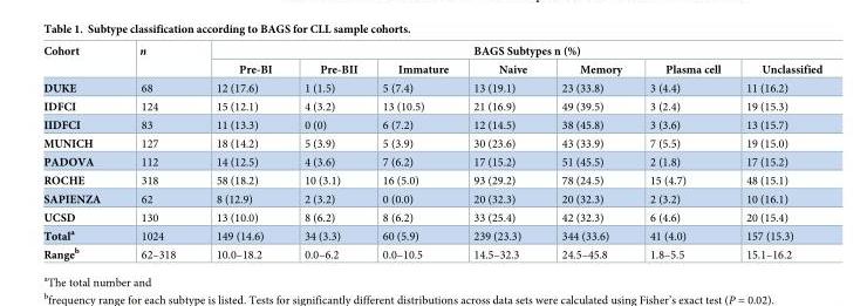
<table><thead><tr><td rowspan="2">Cohort</td><td rowspan="2">n</td><td colspan="7">BAGS Subtypes n (%)</td></tr><tr><td>Pre-BI</td><td>Pre-BII</td><td>Immature</td><td>Naive</td><td>Memory</td><td>Plasma cell</td><td>Unclassified</td></tr></thead><tbody><tr><td>DUKE</td><td>68</td><td>12 (17.6)</td><td>1 (1.5)</td><td>5 (7.4)</td><td>13 (19.1)</td><td>23 (33.8)</td><td>3 (4.4)</td><td>11 (16.2)</td></tr><tr><td>IDFCI</td><td>124</td><td>15 (12.1)</td><td>4 (3.2)</td><td>13 (10.5)</td><td>21 (16.9)</td><td>49 (39.5)</td><td>3 (2.4)</td><td>19 (15.3)</td></tr><tr><td>IIDFCI</td><td>83</td><td>11 (13.3)</td><td>0 (0)</td><td>6 (7.2)</td><td>12 (14.5)</td><td>38 (45.8)</td><td>3 (3.6)</td><td>13 (15.7)</td></tr><tr><td>MUNICH</td><td>127</td><td>18 (14.2)</td><td>5 (3.9)</td><td>5 (3.9)</td><td>30 (23.6)</td><td>43 (33.9)</td><td>7 (5.5)</td><td>19 (15.0)</td></tr><tr><td>PADOVA</td><td>112</td><td>14 (12.5)</td><td>4 (3.6)</td><td>7 (6.2)</td><td>17 (15.2)</td><td>51 (45.5)</td><td>2 (1.8)</td><td>17 (15.2)</td></tr><tr><td>ROCHE</td><td>318</td><td>58 (18.2)</td><td>10 (3.1)</td><td>16 (5.0)</td><td>93 (29.2)</td><td>78 (24.5)</td><td>15 (4.7)</td><td>48 (15.1)</td></tr><tr><td>SAPIENZA</td><td>62</td><td>8 (12.9)</td><td>2 (3.2)</td><td>0 (0.0)</td><td>20 (32.3)</td><td>20 (32.3)</td><td>2 (3.2)</td><td>10 (16.1)</td></tr><tr><td>UCSD</td><td>130</td><td>13 (10.0)</td><td>8 (6.2)</td><td>8 (6.2)</td><td>33 (25.4)</td><td>42 (32.3)</td><td>6 (4.6)</td><td>20 (15.4)</td></tr><tr><td>Total<sup>a</sup></td><td>1024</td><td>149 (14.6)</td><td>34 (3.3)</td><td>60 (5.9)</td><td>239 (23.3)</td><td>344 (33.6)</td><td>41 (4.0)</td><td>157 (15.3)</td></tr><tr><td>Range<sup>b</sup></td><td>62–318</td><td>10.0–18.2</td><td>0.0–6.2</td><td>0.0–10.5</td><td>14.5–32.3</td><td>24.5–45.8</td><td>1.8–5.5</td><td>15.1–16.2</td></tr></tbody></table>